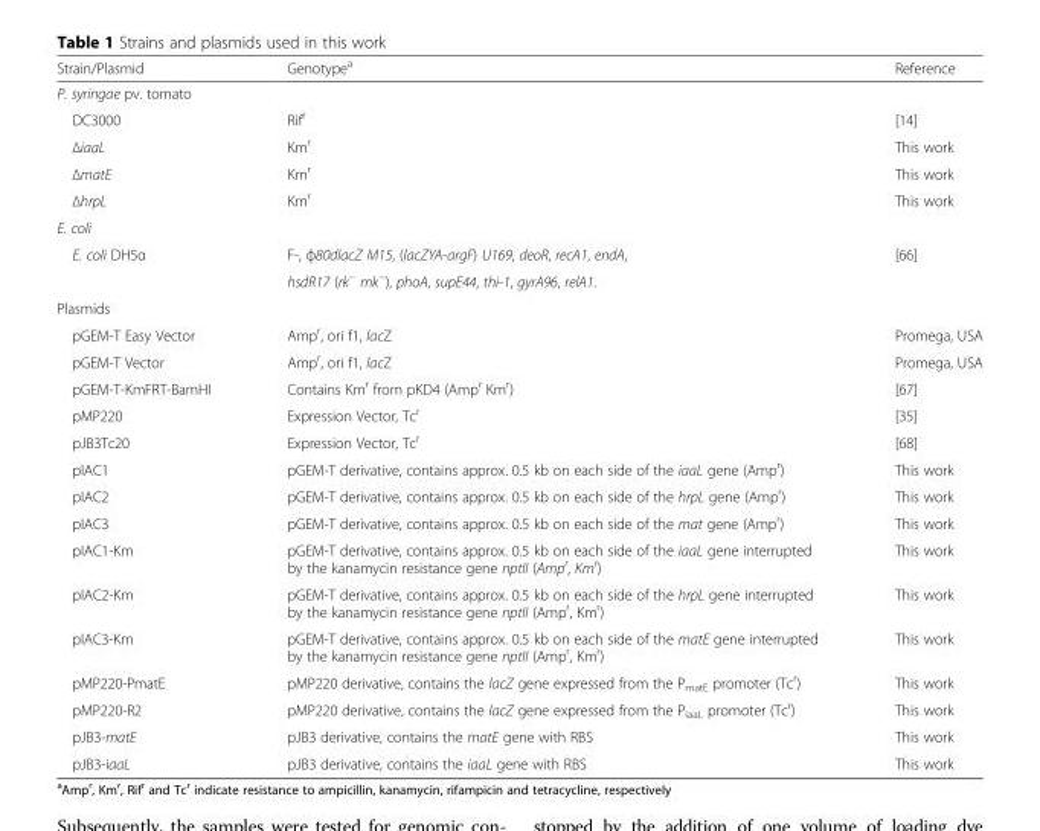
<table><thead><tr><td>Strain/Plasmid</td><td>Genotype<sup>a</sup></td><td>Reference</td></tr></thead><tbody><tr><td colspan="3">P. syringae pv. tomato</td></tr><tr><td>DC3000</td><td>Rif<sup>r</sup></td><td>[14]</td></tr><tr><td>ΔiaaL</td><td>Km<sup>r</sup></td><td>This work</td></tr><tr><td>ΔmatE</td><td>Km<sup>r</sup></td><td>This work</td></tr><tr><td>ΔhrpL</td><td>Km<sup>r</sup></td><td>This work</td></tr><tr><td colspan="3">E. coli</td></tr><tr><td rowspan="2">E. coli DH5α</td><td>F-, ϕ80dlacZ M15, (lacZYA-argF) U169, deoR, recA1, endA,</td><td>[66]</td></tr><tr><td>hsdR17 (rk<sup>−</sup> mk<sup>−</sup>), phoA, supE44, thi-1, gyrA96, relA1.</td><td></td></tr><tr><td colspan="3">Plasmids</td></tr><tr><td>pGEM-T Easy Vector</td><td>Amp<sup>r</sup>, ori f1, lacZ</td><td>Promega, USA</td></tr><tr><td>pGEM-T Vector</td><td>Amp<sup>r</sup>, ori f1, lacZ</td><td>Promega, USA</td></tr><tr><td>pGEM-T-KmFRT-BamHI</td><td>Contains Km<sup>r</sup> from pKD4 (Amp<sup>r</sup> Km<sup>r</sup>)</td><td>[67]</td></tr><tr><td>pMP220</td><td>Expression Vector, Tc<sup>r</sup></td><td>[35]</td></tr><tr><td>pJB3Tc20</td><td>Expression Vector, Tc<sup>r</sup></td><td>[68]</td></tr><tr><td>pIAC1</td><td>pGEM-T derivative, contains approx. 0.5 kb on each side of the iaaL gene (Amp<sup>r</sup>)</td><td>This work</td></tr><tr><td>pIAC2</td><td>pGEM-T derivative, contains approx. 0.5 kb on each side of the hrpL gene (Amp<sup>r</sup>)</td><td>This work</td></tr><tr><td>pIAC3</td><td>pGEM-T derivative, contains approx. 0.5 kb on each side of the mat gene (Amp<sup>r</sup>)</td><td>This work</td></tr><tr><td>pIAC1-Km</td><td>pGEM-T derivative, contains approx. 0.5 kb on each side of the iaaL gene interrupted by the kanamycin resistance gene nptII (Amp<sup>r</sup>, Km<sup>r</sup>)</td><td>This work</td></tr><tr><td>pIAC2-Km</td><td>pGEM-T derivative, contains approx. 0.5 kb on each side of the hrpL gene interrupted by the kanamycin resistance gene nptII (Amp<sup>r</sup>, Km<sup>r</sup>)</td><td>This work</td></tr><tr><td>pIAC3-Km</td><td>pGEM-T derivative, contains approx. 0.5 kb on each side of the matE gene interrupted by the kanamycin resistance gene nptII (Amp<sup>r</sup>, Km<sup>r</sup>)</td><td>This work</td></tr><tr><td>pMP220-PmatE</td><td>pMP220 derivative, contains the lacZ gene expressed from the P<sub>matE</sub> promoter (Tc<sup>r</sup>)</td><td>This work</td></tr><tr><td>pMP220-R2</td><td>pMP220 derivative, contains the lacZ gene expressed from the P<sub>iaaL</sub> promoter (Tc<sup>r</sup>)</td><td>This work</td></tr><tr><td>pJB3-matE</td><td>pJB3 derivative, contains the matE gene with RBS</td><td>This work</td></tr><tr><td>pJB3-iaaL</td><td>pJB3 derivative, contains the iaaL gene with RBS</td><td>This work</td></tr></tbody></table>